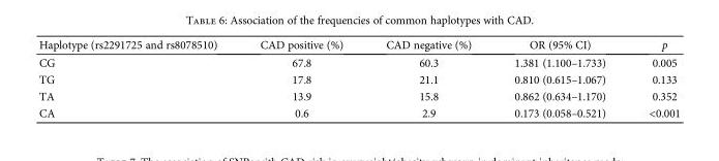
<table><thead><tr><td>Haplotype (rs2291725 and rs8078510)</td><td>CAD positive (%)</td><td>CAD negative (%)</td><td>OR (95% CI)</td><td>p</td></tr></thead><tbody><tr><td>CG</td><td>67.8</td><td>60.3</td><td>1.381 (1.100–1.733)</td><td>0.005</td></tr><tr><td>TG</td><td>17.8</td><td>21.1</td><td>0.810 (0.615–1.067)</td><td>0.133</td></tr><tr><td>TA</td><td>13.9</td><td>15.8</td><td>0.862 (0.634–1.170)</td><td>0.352</td></tr><tr><td>CA</td><td>0.6</td><td>2.9</td><td>0.173 (0.058–0.521)</td><td>&lt;0.001</td></tr></tbody></table>